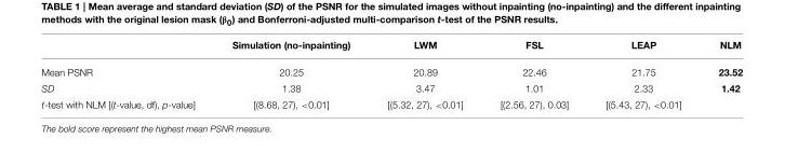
<table><thead><tr><td></td><td>Simulation (no-inpainting)</td><td>LWM</td><td>FSL</td><td>LEAP</td><td>NLM</td></tr></thead><tbody><tr><td>Mean PSNR</td><td>20.25</td><td>20.89</td><td>22.46</td><td>21.75</td><td>23.52</td></tr><tr><td>SD</td><td>1.38</td><td>3.47</td><td>1.01</td><td>2.33</td><td>1.42</td></tr><tr><td>t-test with NLM [(t-value, df), p-value]</td><td>[(8.68, 27), &lt;0.01]</td><td>[(5.32, 27), &lt;0.01]</td><td>[(2.56, 27), 0.03]</td><td>[(5.43, 27), &lt;0.01]</td><td></td></tr></tbody></table>